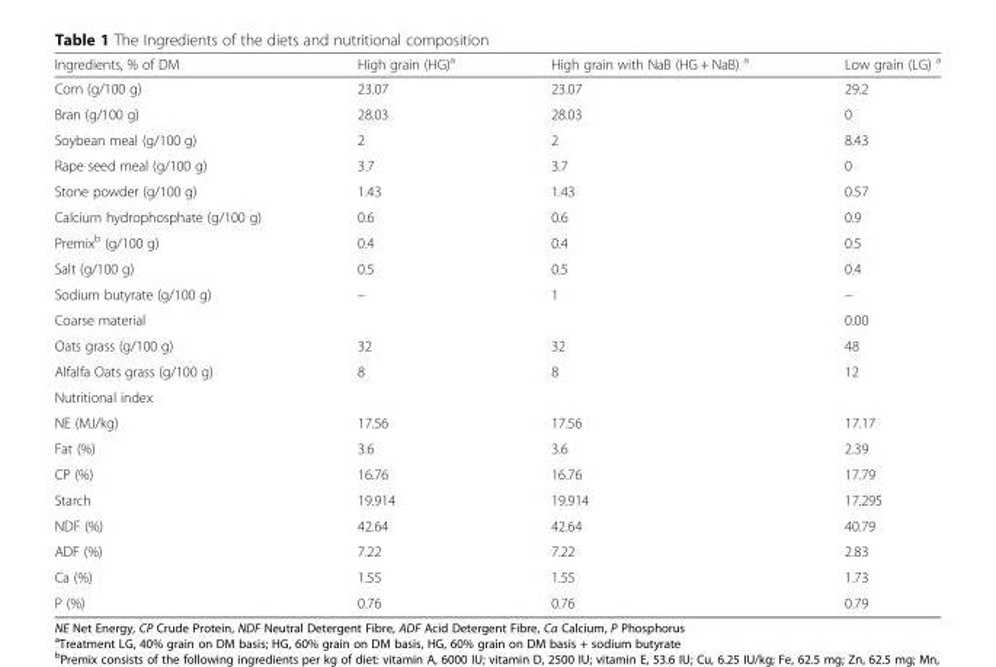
<table><thead><tr><td>Ingredients, % of DM</td><td>High grain (HG)<sup>a</sup></td><td>High grain with NaB (HG + NaB) <sup>a</sup></td><td>Low grain (LG) <sup>a</sup></td></tr></thead><tbody><tr><td>Corn (g/100 g)</td><td>23.07</td><td>23.07</td><td>29.2</td></tr><tr><td>Bran (g/100 g)</td><td>28.03</td><td>28.03</td><td>0</td></tr><tr><td>Soybean meal (g/100 g)</td><td>2</td><td>2</td><td>8.43</td></tr><tr><td>Rape seed meal (g/100 g)</td><td>3.7</td><td>3.7</td><td>0</td></tr><tr><td>Stone powder (g/100 g)</td><td>1.43</td><td>1.43</td><td>0.57</td></tr><tr><td>Calcium hydrophosphate (g/100 g)</td><td>0.6</td><td>0.6</td><td>0.9</td></tr><tr><td>Premix<sup>b</sup> (g/100 g)</td><td>0.4</td><td>0.4</td><td>0.5</td></tr><tr><td>Salt (g/100 g)</td><td>0.5</td><td>0.5</td><td>0.4</td></tr><tr><td>Sodium butyrate (g/100 g)</td><td>–</td><td>1</td><td>–</td></tr><tr><td>Coarse material</td><td></td><td></td><td>0.00</td></tr><tr><td>Oats grass (g/100 g)</td><td>32</td><td>32</td><td>48</td></tr><tr><td>Alfalfa Oats grass (g/100 g)</td><td>8</td><td>8</td><td>12</td></tr><tr><td colspan="4">Nutritional index</td></tr><tr><td>NE (MJ/kg)</td><td>17.56</td><td>17.56</td><td>17.17</td></tr><tr><td>Fat (%)</td><td>3.6</td><td>3.6</td><td>2.39</td></tr><tr><td>CP (%)</td><td>16.76</td><td>16.76</td><td>17.79</td></tr><tr><td>Starch</td><td>19.914</td><td>19.914</td><td>17.295</td></tr><tr><td>NDF (%)</td><td>42.64</td><td>42.64</td><td>40.79</td></tr><tr><td>ADF (%)</td><td>7.22</td><td>7.22</td><td>2.83</td></tr><tr><td>Ca (%)</td><td>1.55</td><td>1.55</td><td>1.73</td></tr><tr><td>P (%)</td><td>0.76</td><td>0.76</td><td>0.79</td></tr></tbody></table>